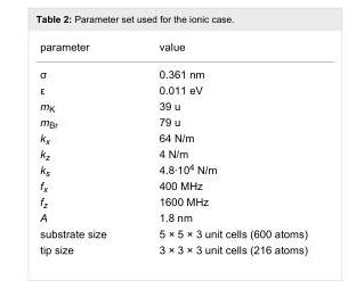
<table><tbody><tr><td>parameter</td><td>value</td></tr><tr><td>σ</td><td>0.361 nm</td></tr><tr><td>ε</td><td>0.011 eV</td></tr><tr><td>m<sub>K</sub></td><td>39 u</td></tr><tr><td>m<sub>Br</sub></td><td>79 u</td></tr><tr><td>k<sub>x</sub></td><td>64 N/m</td></tr><tr><td>k<sub>z</sub></td><td>4 N/m</td></tr><tr><td>k<sub>s</sub></td><td>4.8·10<sup>4</sup> N/m</td></tr><tr><td>f<sub>x</sub></td><td>400 MHz</td></tr><tr><td>f<sub>z</sub></td><td>1600 MHz</td></tr><tr><td>A</td><td>1.8 nm</td></tr><tr><td>substrate size</td><td>5 × 5 × 3 unit cells (600 atoms)</td></tr><tr><td>tip size</td><td>3 × 3 × 3 unit cells (216 atoms)</td></tr></tbody></table>